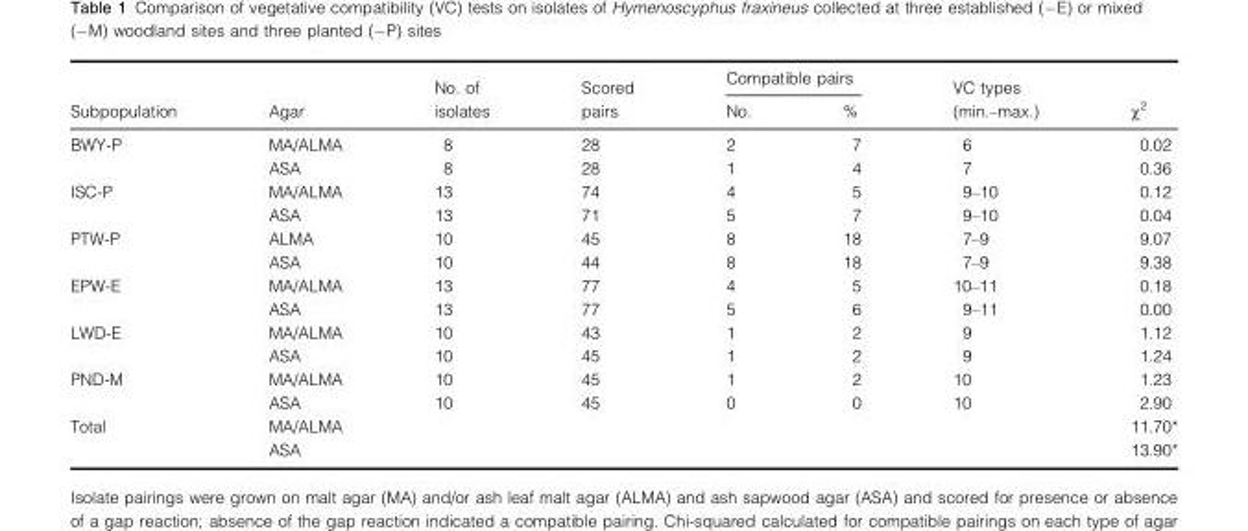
<table><thead><tr><td rowspan="2">Subpopulation</td><td rowspan="2">Agar</td><td rowspan="2">No. of isolates</td><td rowspan="2">Scored pairs</td><td colspan="2">Compatible pairs</td><td rowspan="2">VC types (min.–max.)</td><td rowspan="2">χ<sup>2</sup></td></tr><tr><td>No.</td><td>%</td></tr></thead><tbody><tr><td rowspan="2">BWY-P</td><td>MA/ALMA</td><td>8</td><td>28</td><td>2</td><td>7</td><td>6</td><td>0.02</td></tr><tr><td>ASA</td><td>8</td><td>28</td><td>1</td><td>4</td><td>7</td><td>0.36</td></tr><tr><td rowspan="2">ISC-P</td><td>MA/ALMA</td><td>13</td><td>74</td><td>4</td><td>5</td><td>9–10</td><td>0.12</td></tr><tr><td>ASA</td><td>13</td><td>71</td><td>5</td><td>7</td><td>9–10</td><td>0.04</td></tr><tr><td rowspan="2">PTW-P</td><td>ALMA</td><td>10</td><td>45</td><td>8</td><td>18</td><td>7–9</td><td>9.07</td></tr><tr><td>ASA</td><td>10</td><td>44</td><td>8</td><td>18</td><td>7–9</td><td>9.38</td></tr><tr><td rowspan="2">EPW-E</td><td>MA/ALMA</td><td>13</td><td>77</td><td>4</td><td>5</td><td>10–11</td><td>0.18</td></tr><tr><td>ASA</td><td>13</td><td>77</td><td>5</td><td>6</td><td>9–11</td><td>0.00</td></tr><tr><td rowspan="2">LWD-E</td><td>MA/ALMA</td><td>10</td><td>43</td><td>1</td><td>2</td><td>9</td><td>1.12</td></tr><tr><td>ASA</td><td>10</td><td>45</td><td>1</td><td>2</td><td>9</td><td>1.24</td></tr><tr><td rowspan="2">PND-M</td><td>MA/ALMA</td><td>10</td><td>45</td><td>1</td><td>2</td><td>10</td><td>1.23</td></tr><tr><td>ASA</td><td>10</td><td>45</td><td>0</td><td>0</td><td>10</td><td>2.90</td></tr><tr><td rowspan="2">Total</td><td>MA/ALMA</td><td></td><td></td><td></td><td></td><td></td><td>11.70*</td></tr><tr><td>ASA</td><td></td><td></td><td></td><td></td><td></td><td>13.90*</td></tr></tbody></table>